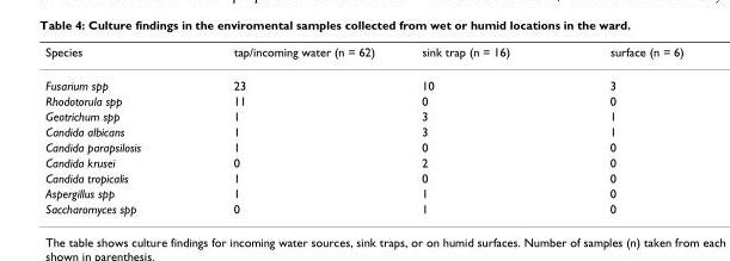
<table><thead><tr><td>Species</td><td>tap/incoming water (n = 62)</td><td>sink trap (n = 16)</td><td>surface (n = 6)</td></tr></thead><tbody><tr><td>Fusarium spp</td><td>23</td><td>10</td><td>3</td></tr><tr><td>Rhodotorula spp</td><td>11</td><td>0</td><td>0</td></tr><tr><td>Geotrichum spp</td><td>1</td><td>3</td><td>1</td></tr><tr><td>Candida albicans</td><td>1</td><td>3</td><td>1</td></tr><tr><td>Candida parapsilosis</td><td>1</td><td>0</td><td>0</td></tr><tr><td>Candida krusei</td><td>0</td><td>2</td><td>0</td></tr><tr><td>Candida tropicalis</td><td>1</td><td>0</td><td>0</td></tr><tr><td>Aspergillus spp</td><td>1</td><td>1</td><td>0</td></tr><tr><td>Saccharomyces spp</td><td>0</td><td>1</td><td>0</td></tr></tbody></table>